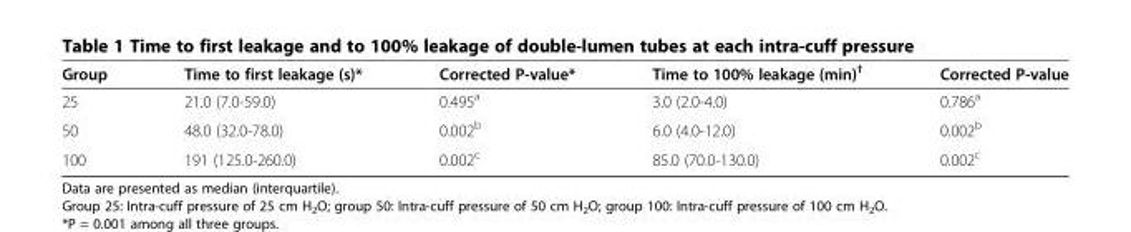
<table><thead><tr><td>Group</td><td>Time to first leakage (s)*</td><td>Corrected P-value*</td><td>Time to 100% leakage (min)<sup>†</sup></td><td>Corrected P-value</td></tr></thead><tbody><tr><td>25</td><td>21.0 (7.0-59.0)</td><td>0.495<sup>a</sup></td><td>3.0 (2.0-4.0)</td><td>0.786<sup>a</sup></td></tr><tr><td>50</td><td>48.0 (32.0-78.0)</td><td>0.002<sup>b</sup></td><td>6.0 (4.0-12.0)</td><td>0.002<sup>b</sup></td></tr><tr><td>100</td><td>191 (125.0-260.0)</td><td>0.002<sup>c</sup></td><td>85.0 (70.0-130.0)</td><td>0.002<sup>c</sup></td></tr></tbody></table>